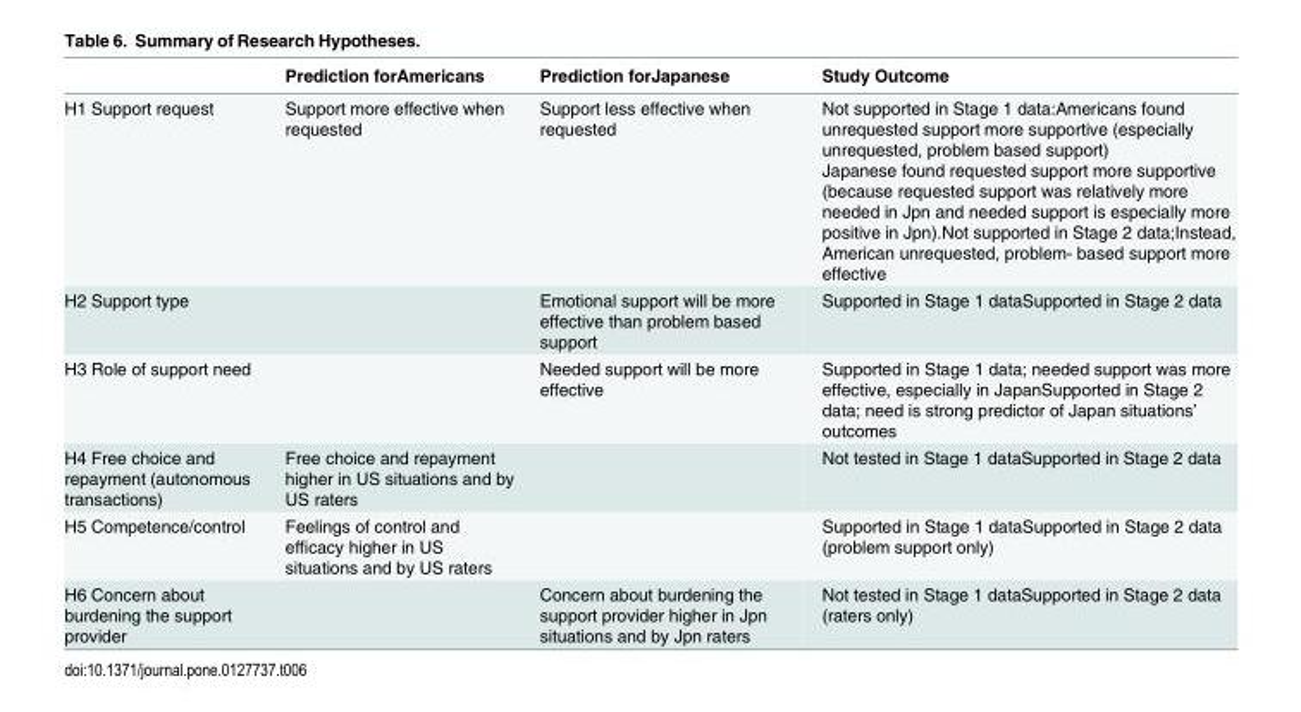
<table><thead><tr><td></td><td>Prediction forAmericans</td><td>Prediction forJapanese</td><td>Study Outcome</td></tr></thead><tbody><tr><td>H1 Support request</td><td>Support more effective when requested</td><td>Support less effective when requested</td><td>Not supported in Stage 1 data:Americans found unrequested support more supportive (especially unrequested, problem based support) Japanese found requested support more supportive (because requested support was relatively more needed in Jpn and needed support is especially more positive in Jpn).Not supported in Stage 2 data;Instead, American unrequested, problem- based support more effective</td></tr><tr><td>H2 Support type</td><td></td><td>Emotional support will be more effective than problem based support</td><td>Supported in Stage 1 dataSupported in Stage 2 data</td></tr><tr><td>H3 Role of support need</td><td></td><td>Needed support will be more effective</td><td>Supported in Stage 1 data; needed support was more effective, especially in JapanSupported in Stage 2 data; need is strong predictor of Japan situations’ outcomes</td></tr><tr><td>H4 Free choice and repayment (autonomous transactions)</td><td>Free choice and repayment higher in US situations and by US raters</td><td></td><td>Not tested in Stage 1 dataSupported in Stage 2 data</td></tr><tr><td>H5 Competence/control</td><td>Feelings of control and efficacy higher in US situations and by US raters</td><td></td><td>Supported in Stage 1 dataSupported in Stage 2 data (problem support only)</td></tr><tr><td>H6 Concern about burdening the support provider</td><td></td><td>Concern about burdening the support provider higher in Jpn situations and by Jpn raters</td><td>Not tested in Stage 1 dataSupported in Stage 2 data (raters only)</td></tr></tbody></table>